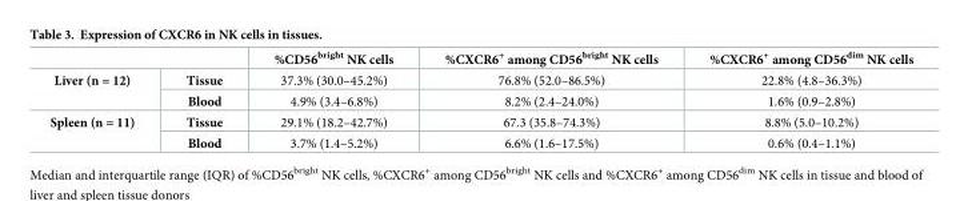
<table><thead><tr><td></td><td></td><td>%CD56<sup>bright</sup> NK cells</td><td>%CXCR6<sup>+</sup> among CD56<sup>bright</sup> NK cells</td><td>%CXCR6<sup>+</sup> among CD56<sup>dim</sup> NK cells</td></tr></thead><tbody><tr><td rowspan="2">Liver (n = 12)</td><td>Tissue</td><td>37.3% (30.0–45.2%)</td><td>76.8% (52.0–86.5%)</td><td>22.8% (4.8–36.3%)</td></tr><tr><td>Blood</td><td>4.9% (3.4–6.8%)</td><td>8.2% (2.4–24.0%)</td><td>1.6% (0.9–2.8%)</td></tr><tr><td rowspan="2">Spleen (n = 11)</td><td>Tissue</td><td>29.1% (18.2–42.7%)</td><td>67.3 (35.8–74.3%)</td><td>8.8% (5.0–10.2%)</td></tr><tr><td>Blood</td><td>3.7% (1.4–5.2%)</td><td>6.6% (1.6–17.5%)</td><td>0.6% (0.4–1.1%)</td></tr></tbody></table>